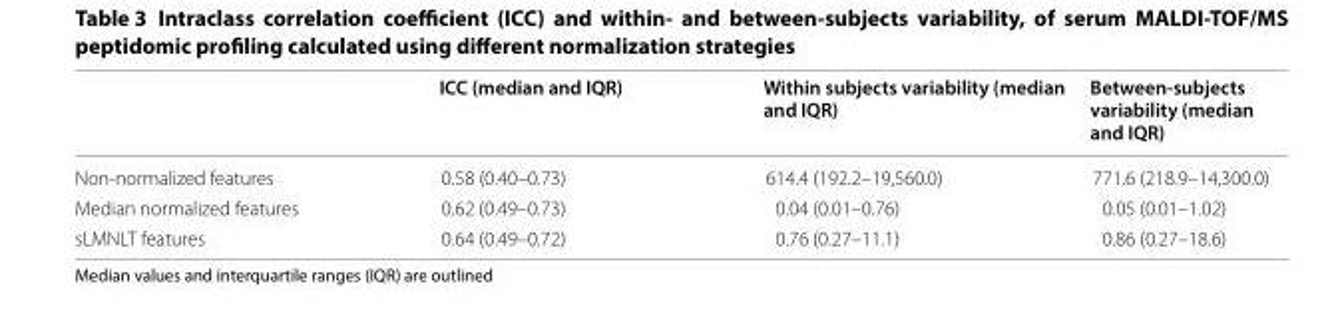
<table><thead><tr><td></td><td>ICC (median and IQR)</td><td>Within subjects variability (median and IQR)</td><td>Between‑subjects variability (median and IQR)</td></tr></thead><tbody><tr><td>Non‑normalized features</td><td>0.58 (0.40–0.73)</td><td>614.4 (192.2–19,560.0)</td><td>771.6 (218.9–14,300.0)</td></tr><tr><td>Median normalized features</td><td>0.62 (0.49–0.73)</td><td>0.04 (0.01–0.76)</td><td>0.05 (0.01–1.02)</td></tr><tr><td>sLMNLT features</td><td>0.64 (0.49–0.72)</td><td>0.76 (0.27–11.1)</td><td>0.86 (0.27–18.6)</td></tr></tbody></table>